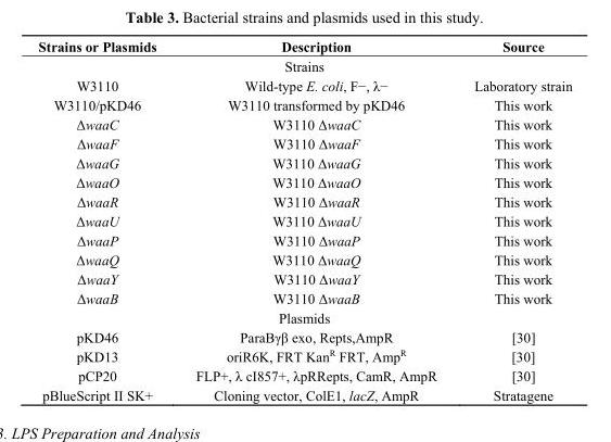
<table><thead><tr><td>Strains or Plasmids</td><td>Description</td><td>Source</td></tr></thead><tbody><tr><td colspan="3">Strains</td></tr><tr><td>W3110</td><td>Wild-type E. coli, F−, λ−</td><td>Laboratory strain</td></tr><tr><td>W3110/pKD46</td><td>W3110 transformed by pKD46</td><td>This work</td></tr><tr><td>ΔwaaC</td><td>W3110 ΔwaaC</td><td>This work</td></tr><tr><td>ΔwaaF</td><td>W3110 ΔwaaF</td><td>This work</td></tr><tr><td>ΔwaaG</td><td>W3110 ΔwaaG</td><td>This work</td></tr><tr><td>ΔwaaO</td><td>W3110 ΔwaaO</td><td>This work</td></tr><tr><td>ΔwaaR</td><td>W3110 ΔwaaR</td><td>This work</td></tr><tr><td>ΔwaaU</td><td>W3110 ΔwaaU</td><td>This work</td></tr><tr><td>ΔwaaP</td><td>W3110 ΔwaaP</td><td>This work</td></tr><tr><td>ΔwaaQ</td><td>W3110 ΔwaaQ</td><td>This work</td></tr><tr><td>ΔwaaY</td><td>W3110 ΔwaaY</td><td>This work</td></tr><tr><td>ΔwaaB</td><td>W3110 ΔwaaB</td><td>This work</td></tr><tr><td colspan="3">Plasmids</td></tr><tr><td>pKD46</td><td>ParaBγβ exo, Repts,AmpR</td><td>[30]</td></tr><tr><td>pKD13</td><td>oriR6K, FRT Kan<sup>R</sup> FRT, Amp<sup>R</sup></td><td>[30]</td></tr><tr><td>pCP20</td><td>FLP+, λ cI857+, λpRRepts, CamR, AmpR</td><td>[30]</td></tr><tr><td>pBlueScript II SK+</td><td>Cloning vector, ColE1, lacZ, AmpR</td><td>Stratagene</td></tr></tbody></table>